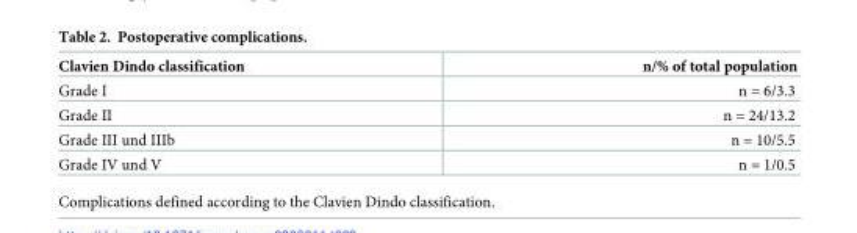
<table><thead><tr><td>Clavien Dindo classification</td><td>n/% of total population</td></tr></thead><tbody><tr><td>Grade I</td><td>n = 6/3.3</td></tr><tr><td>Grade II</td><td>n = 24/13.2</td></tr><tr><td>Grade III und IIIb</td><td>n = 10/5.5</td></tr><tr><td>Grade IV und V</td><td>n = 1/0.5</td></tr></tbody></table>